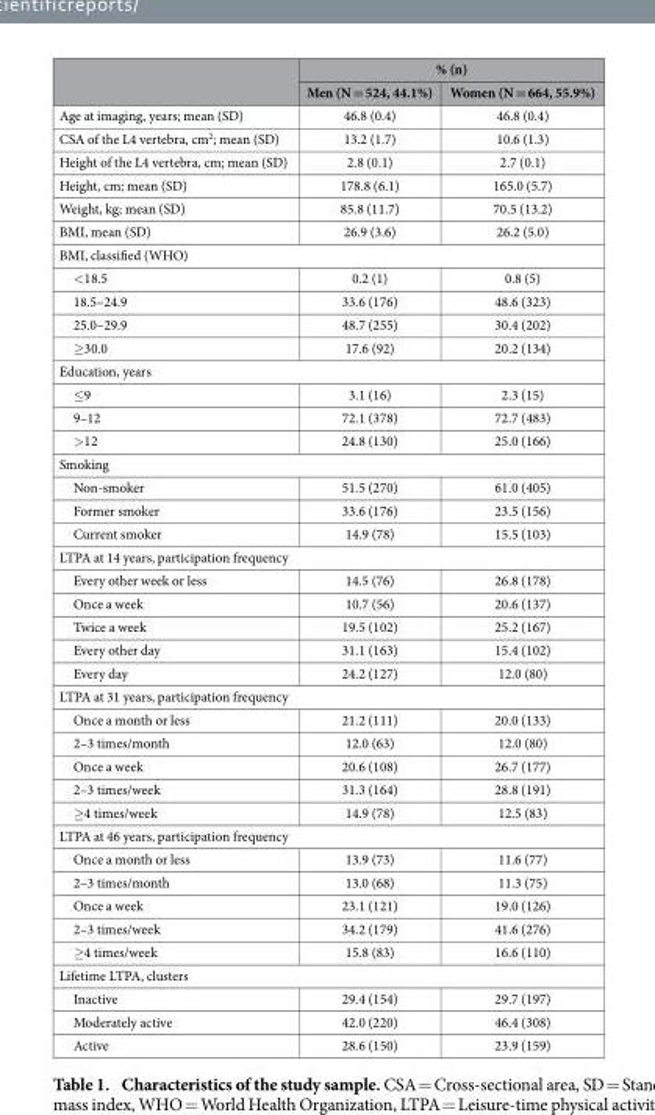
<table><thead><tr><td rowspan="2"></td><td colspan="2">% (n)</td></tr><tr><td>Men (N = 524, 44.1%)</td><td>Women (N = 664, 55.9%)</td></tr></thead><tbody><tr><td>Age at imaging, years; mean (SD)</td><td>46.8 (0.4)</td><td>46.8 (0.4)</td></tr><tr><td>CSA of the L4 vertebra, cm<sup>2</sup>; mean (SD)</td><td>13.2 (1.7)</td><td>10.6 (1.3)</td></tr><tr><td>Height of the L4 vertebra, cm; mean (SD)</td><td>2.8 (0.1)</td><td>2.7 (0.1)</td></tr><tr><td>Height, cm; mean (SD)</td><td>178.8 (6.1)</td><td>165.0 (5.7)</td></tr><tr><td>Weight, kg; mean (SD)</td><td>85.8 (11.7)</td><td>70.5 (13.2)</td></tr><tr><td>BMI, mean (SD)</td><td>26.9 (3.6)</td><td>26.2 (5.0)</td></tr><tr><td colspan="3">BMI, classified (WHO)</td></tr><tr><td>&lt;18.5</td><td>0.2 (1)</td><td>0.8 (5)</td></tr><tr><td>18.5–24.9</td><td>33.6 (176)</td><td>48.6 (323)</td></tr><tr><td>25.0–29.9</td><td>48.7 (255)</td><td>30.4 (202)</td></tr><tr><td>≥30.0</td><td>17.6 (92)</td><td>20.2 (134)</td></tr><tr><td colspan="3">Education, years</td></tr><tr><td>≤9</td><td>3.1 (16)</td><td>2.3 (15)</td></tr><tr><td>9–12</td><td>72.1 (378)</td><td>72.7 (483)</td></tr><tr><td>&gt;12</td><td>24.8 (130)</td><td>25.0 (166)</td></tr><tr><td colspan="3">Smoking</td></tr><tr><td>Non-smoker</td><td>51.5 (270)</td><td>61.0 (405)</td></tr><tr><td>Former smoker</td><td>33.6 (176)</td><td>23.5 (156)</td></tr><tr><td>Current smoker</td><td>14.9 (78)</td><td>15.5 (103)</td></tr><tr><td colspan="3">LTPA at 14 years, participation frequency</td></tr><tr><td>Every other week or less</td><td>14.5 (76)</td><td>26.8 (178)</td></tr><tr><td>Once a week</td><td>10.7 (56)</td><td>20.6 (137)</td></tr><tr><td>Twice a week</td><td>19.5 (102)</td><td>25.2 (167)</td></tr><tr><td>Every other day</td><td>31.1 (163)</td><td>15.4 (102)</td></tr><tr><td>Every day</td><td>24.2 (127)</td><td>12.0 (80)</td></tr><tr><td colspan="3">LTPA at 31 years, participation frequency</td></tr><tr><td>Once a month or less</td><td>21.2 (111)</td><td>20.0 (133)</td></tr><tr><td>2–3 times/month</td><td>12.0 (63)</td><td>12.0 (80)</td></tr><tr><td>Once a week</td><td>20.6 (108)</td><td>26.7 (177)</td></tr><tr><td>2–3 times/week</td><td>31.3 (164)</td><td>28.8 (191)</td></tr><tr><td>≥4 times/week</td><td>14.9 (78)</td><td>12.5 (83)</td></tr><tr><td colspan="3">LTPA at 46 years, participation frequency</td></tr><tr><td>Once a month or less</td><td>13.9 (73)</td><td>11.6 (77)</td></tr><tr><td>2–3 times/month</td><td>13.0 (68)</td><td>11.3 (75)</td></tr><tr><td>Once a week</td><td>23.1 (121)</td><td>19.0 (126)</td></tr><tr><td>2–3 times/week</td><td>34.2 (179)</td><td>41.6 (276)</td></tr><tr><td>≥4 times/week</td><td>15.8 (83)</td><td>16.6 (110)</td></tr><tr><td colspan="3">Lifetime LTPA, clusters</td></tr><tr><td>Inactive</td><td>29.4 (154)</td><td>29.7 (197)</td></tr><tr><td>Moderately active</td><td>42.0 (220)</td><td>46.4 (308)</td></tr><tr><td>Active</td><td>28.6 (150)</td><td>23.9 (159)</td></tr></tbody></table>